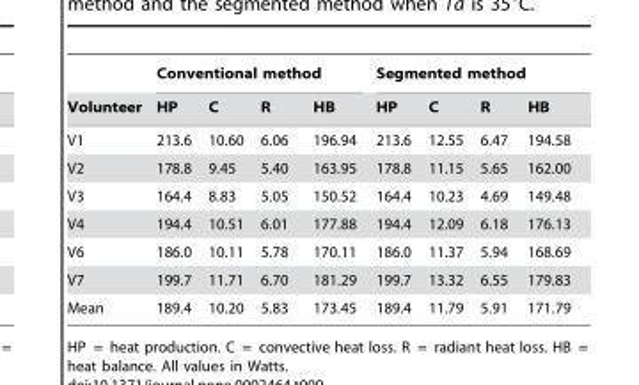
<table><thead><tr><td rowspan="2">Volunteer</td><td colspan="4">Conventional method</td><td colspan="4">Segmented method</td></tr><tr><td>HP</td><td>C</td><td>R</td><td>HB</td><td>HP</td><td>C</td><td>R</td><td>HB</td></tr></thead><tbody><tr><td>V1</td><td>213.6</td><td>10.60</td><td>6.06</td><td>196.94</td><td>213.6</td><td>12.55</td><td>6.47</td><td>194.58</td></tr><tr><td>V2</td><td>178.8</td><td>9.45</td><td>5.40</td><td>163.95</td><td>178.8</td><td>11.15</td><td>5.65</td><td>162.00</td></tr><tr><td>V3</td><td>164.4</td><td>8.83</td><td>5.05</td><td>150.52</td><td>164.4</td><td>10.23</td><td>4.69</td><td>149.48</td></tr><tr><td>V4</td><td>194.4</td><td>10.51</td><td>6.01</td><td>177.88</td><td>194.4</td><td>12.09</td><td>6.18</td><td>176.13</td></tr><tr><td>V6</td><td>186.0</td><td>10.11</td><td>5.78</td><td>170.11</td><td>186.0</td><td>11.37</td><td>5.94</td><td>168.69</td></tr><tr><td>V7</td><td>199.7</td><td>11.71</td><td>6.70</td><td>181.29</td><td>199.7</td><td>13.32</td><td>6.55</td><td>179.83</td></tr><tr><td>Mean</td><td>189.4</td><td>10.20</td><td>5.83</td><td>173.45</td><td>189.4</td><td>11.79</td><td>5.91</td><td>171.79</td></tr></tbody></table>